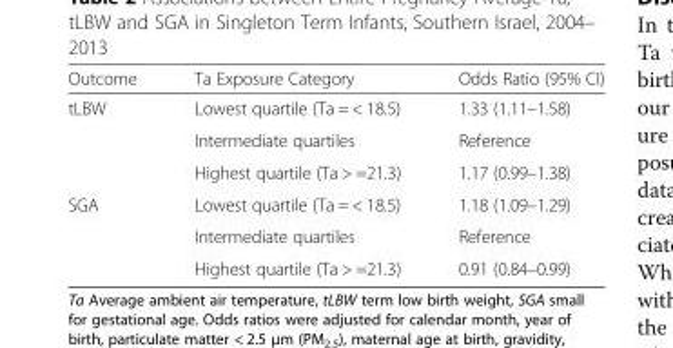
<table><thead><tr><td>Outcome</td><td>Ta Exposure Category</td><td>Odds Ratio (95% CI)</td></tr></thead><tbody><tr><td rowspan="3">tLBW</td><td>Lowest quartile (Ta = &lt; 18.5)</td><td>1.33 (1.11–1.58)</td></tr><tr><td>Intermediate quartiles</td><td>Reference</td></tr><tr><td>Highest quartile (Ta &gt; =21.3)</td><td>1.17 (0.99–1.38)</td></tr><tr><td rowspan="3">SGA</td><td>Lowest quartile (Ta = &lt; 18.5)</td><td>1.18 (1.09–1.29)</td></tr><tr><td>Intermediate quartiles</td><td>Reference</td></tr><tr><td>Highest quartile (Ta &gt; =21.3)</td><td>0.91 (0.84–0.99)</td></tr></tbody></table>